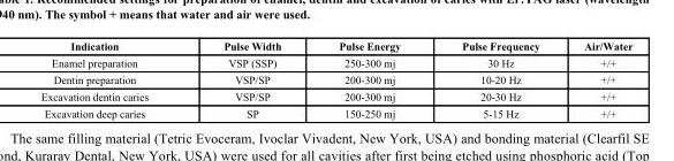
<table><thead><tr><td>Indication</td><td>Pulse Width</td><td>Pulse Energy</td><td>Pulse Frequency</td><td>Air/Water</td></tr></thead><tbody><tr><td>Enamel preparation</td><td>VSP (SSP)</td><td>250-300 mj</td><td>30 Hz</td><td>+/+</td></tr><tr><td>Dentin preparation</td><td>VSP/SP</td><td>200-300 mj</td><td>10-20 Hz</td><td>+/+</td></tr><tr><td>Excavation dentin caries</td><td>VSP/SP</td><td>200-300 mj</td><td>20-30 Hz</td><td>+/+</td></tr><tr><td>Excavation deep caries</td><td>SP</td><td>150-250 mj</td><td>5-15 Hz</td><td>+/+</td></tr></tbody></table>